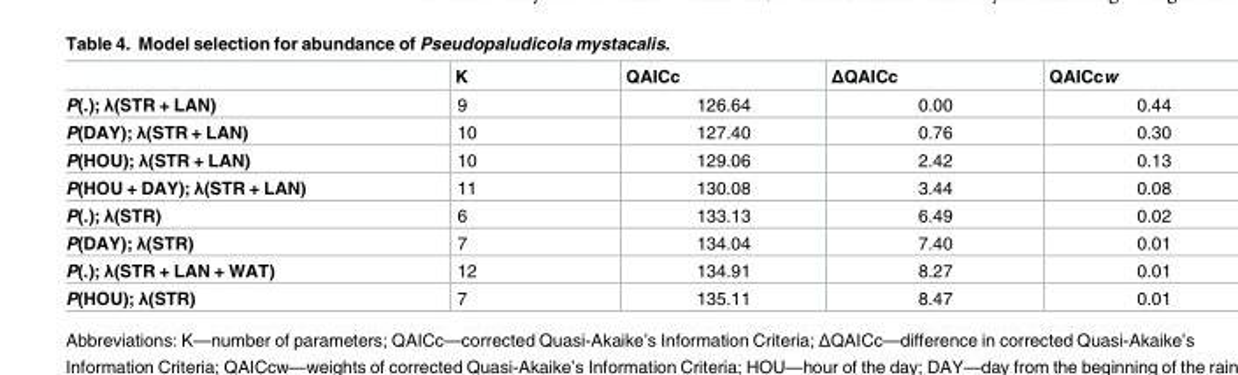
<table><thead><tr><td></td><td>K</td><td>QAICc</td><td>ΔQAICc</td><td>QAICcw</td></tr></thead><tbody><tr><td>P(.); λ(STR + LAN)</td><td>9</td><td>126.64</td><td>0.00</td><td>0.44</td></tr><tr><td>P(DAY); λ(STR + LAN)</td><td>10</td><td>127.40</td><td>0.76</td><td>0.30</td></tr><tr><td>P(HOU); λ(STR + LAN)</td><td>10</td><td>129.06</td><td>2.42</td><td>0.13</td></tr><tr><td>P(HOU + DAY); λ(STR + LAN)</td><td>11</td><td>130.08</td><td>3.44</td><td>0.08</td></tr><tr><td>P(.); λ(STR)</td><td>6</td><td>133.13</td><td>6.49</td><td>0.02</td></tr><tr><td>P(DAY); λ(STR)</td><td>7</td><td>134.04</td><td>7.40</td><td>0.01</td></tr><tr><td>P(.); λ(STR + LAN + WAT)</td><td>12</td><td>134.91</td><td>8.27</td><td>0.01</td></tr><tr><td>P(HOU); λ(STR)</td><td>7</td><td>135.11</td><td>8.47</td><td>0.01</td></tr></tbody></table>